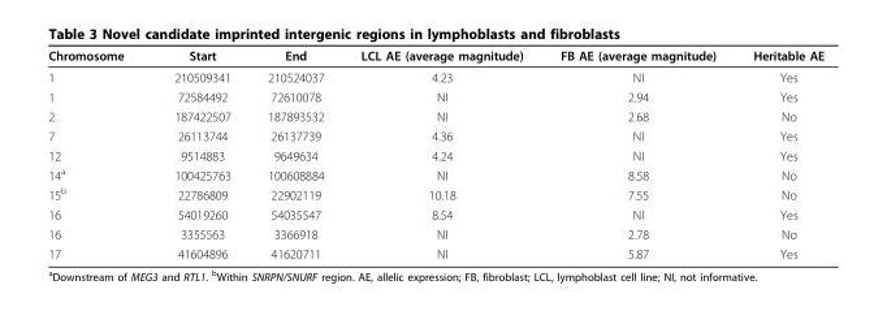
<table><thead><tr><td>Chromosome</td><td>Start</td><td>End</td><td>LCL AE (average magnitude)</td><td>FB AE (average magnitude)</td><td>Heritable AE</td></tr></thead><tbody><tr><td>1</td><td>210509341</td><td>210524037</td><td>4.23</td><td>NI</td><td>Yes</td></tr><tr><td>1</td><td>72584492</td><td>72610078</td><td>NI</td><td>2.94</td><td>Yes</td></tr><tr><td>2</td><td>187422507</td><td>187893532</td><td>NI</td><td>2.68</td><td>No</td></tr><tr><td>7</td><td>26113744</td><td>26137739</td><td>4.36</td><td>NI</td><td>Yes</td></tr><tr><td>12</td><td>9514883</td><td>9649634</td><td>4.24</td><td>NI</td><td>Yes</td></tr><tr><td>14<sup>a</sup></td><td>100425763</td><td>100608884</td><td>NI</td><td>8.58</td><td>No</td></tr><tr><td>15<sup>b</sup></td><td>22786809</td><td>22902119</td><td>10.18</td><td>7.55</td><td>No</td></tr><tr><td>16</td><td>54019260</td><td>54035547</td><td>8.54</td><td>NI</td><td>Yes</td></tr><tr><td>16</td><td>3355563</td><td>3366918</td><td>NI</td><td>2.78</td><td>No</td></tr><tr><td>17</td><td>41604896</td><td>41620711</td><td>NI</td><td>5.87</td><td>Yes</td></tr></tbody></table>